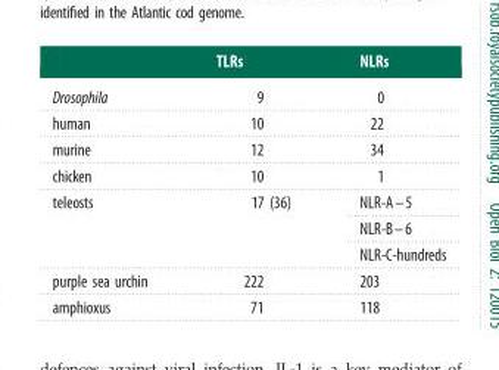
<table><thead><tr><td></td><td>TLRs</td><td>NLRs</td></tr></thead><tbody><tr><td>Drosophila</td><td>9</td><td>0</td></tr><tr><td>human</td><td>10</td><td>22</td></tr><tr><td>murine</td><td>12</td><td>34</td></tr><tr><td>chicken</td><td>10</td><td>1</td></tr><tr><td rowspan="3">teleosts</td><td rowspan="3">17 (36)</td><td>NLR-A–5</td></tr><tr><td>NLR-B–6</td></tr><tr><td>NLR-C-hundreds</td></tr><tr><td>purple sea urchin</td><td>222</td><td>203</td></tr><tr><td>amphioxus</td><td>71</td><td>118</td></tr></tbody></table>